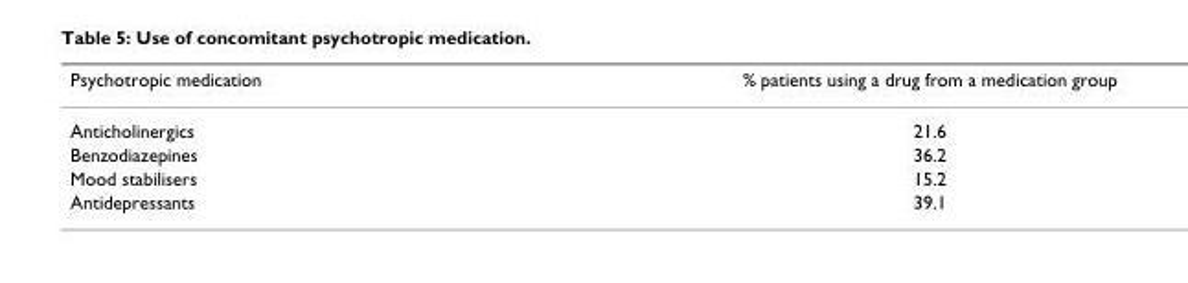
<table><thead><tr><td>Psychotropic medication</td><td>% patients using a drug from a medication group</td></tr></thead><tbody><tr><td>Anticholinergics</td><td>21.6</td></tr><tr><td>Benzodiazepines</td><td>36.2</td></tr><tr><td>Mood stabilisers</td><td>15.2</td></tr><tr><td>Antidepressants</td><td>39.1</td></tr></tbody></table>